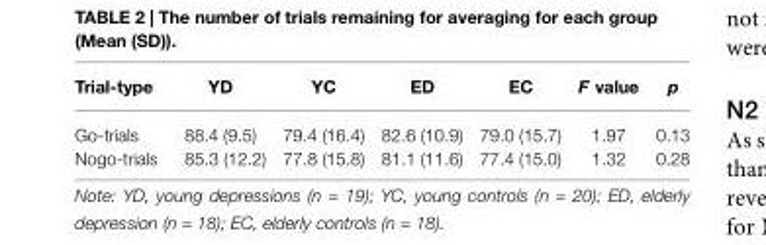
<table><thead><tr><td>Trial-type</td><td>YD</td><td>YC</td><td>ED</td><td>EC</td><td>F value</td><td>p</td></tr></thead><tbody><tr><td>Go-trials</td><td>88.4 (9.5)</td><td>79.4 (16.4)</td><td>82.6 (10.9)</td><td>79.0 (15.7)</td><td>1.97</td><td>0.13</td></tr><tr><td>Nogo-trials</td><td>85.3 (12.2)</td><td>77.8 (15.8)</td><td>81.1 (11.6)</td><td>77.4 (15.0)</td><td>1.32</td><td>0.28</td></tr></tbody></table>